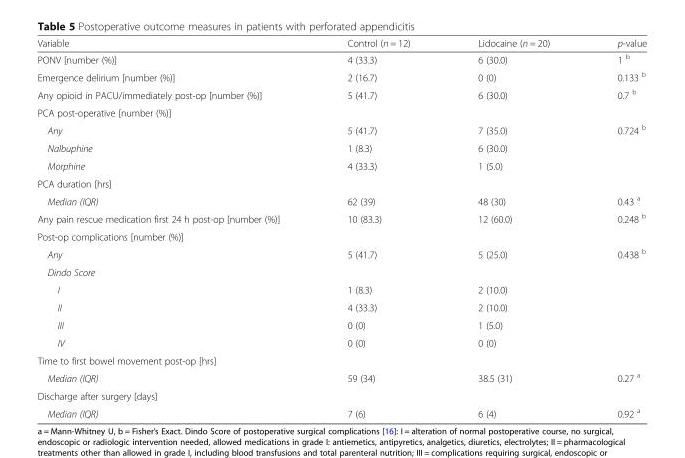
<table><thead><tr><td>Variable</td><td>Control (n = 12)</td><td>Lidocaine (n = 20)</td><td>p-value</td></tr></thead><tbody><tr><td>PONV [number (%)]</td><td>4 (33.3)</td><td>6 (30.0)</td><td>1 <sup>b</sup></td></tr><tr><td>Emergence delirium [number (%)]</td><td>2 (16.7)</td><td>0 (0)</td><td>0.133 <sup>b</sup></td></tr><tr><td>Any opioid in PACU/immediately post-op [number (%)]</td><td>5 (41.7)</td><td>6 (30.0)</td><td>0.7 <sup>b</sup></td></tr><tr><td colspan="4">PCA post-operative [number (%)]</td></tr><tr><td>Any</td><td>5 (41.7)</td><td>7 (35.0)</td><td>0.724 <sup>b</sup></td></tr><tr><td>Nalbuphine</td><td>1 (8.3)</td><td>6 (30.0)</td><td></td></tr><tr><td>Morphine</td><td>4 (33.3)</td><td>1 (5.0)</td><td></td></tr><tr><td colspan="4">PCA duration [hrs]</td></tr><tr><td>Median (IQR)</td><td>62 (39)</td><td>48 (30)</td><td>0.43 <sup>a</sup></td></tr><tr><td>Any pain rescue medication first 24 h post-op [number (%)]</td><td>10 (83.3)</td><td>12 (60.0)</td><td>0.248 <sup>b</sup></td></tr><tr><td colspan="4">Post-op complications [number (%)]</td></tr><tr><td>Any</td><td>5 (41.7)</td><td>5 (25.0)</td><td>0.438 <sup>b</sup></td></tr><tr><td colspan="4">Dindo Score</td></tr><tr><td>I</td><td>1 (8.3)</td><td>2 (10.0)</td><td></td></tr><tr><td>II</td><td>4 (33.3)</td><td>2 (10.0)</td><td></td></tr><tr><td>III</td><td>0 (0)</td><td>1 (5.0)</td><td></td></tr><tr><td>IV</td><td>0 (0)</td><td>0 (0)</td><td></td></tr><tr><td colspan="4">Time to first bowel movement post-op [hrs]</td></tr><tr><td>Median (IQR)</td><td>59 (34)</td><td>38.5 (31)</td><td>0.27 <sup>a</sup></td></tr><tr><td colspan="4">Discharge after surgery [days]</td></tr><tr><td>Median (IQR)</td><td>7 (6)</td><td>6 (4)</td><td>0.92 <sup>a</sup></td></tr></tbody></table>